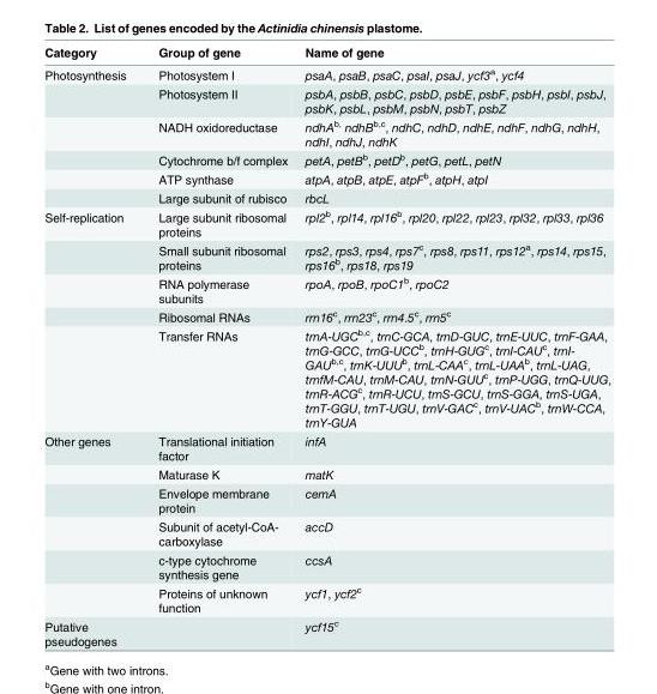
<table><thead><tr><td>Category</td><td>Group of gene</td><td>Name of gene</td></tr></thead><tbody><tr><td rowspan="6">Photosynthesis</td><td>Photosystem I</td><td>psaA, psaB, psaC, psaI, psaJ, ycf3<sup>a</sup>, ycf4</td></tr><tr><td>Photosystem II</td><td>psbA, psbB, psbC, psbD, psbE, psbF, psbH, psbI, psbJ, psbK, psbL, psbM, psbN, psbT, psbZ</td></tr><tr><td>NADH oxidoreductase</td><td>ndhA<sup>b,</sup> ndhB<sup>b,c</sup>, ndhC, ndhD, ndhE, ndhF, ndhG, ndhH, ndhI, ndhJ, ndhK</td></tr><tr><td>Cytochrome b/f complex</td><td>petA, petB<sup>b</sup>, petD<sup>b</sup>, petG, petL, petN</td></tr><tr><td>ATP synthase</td><td>atpA, atpB, atpE, atpF<sup>b</sup>, atpH, atpI</td></tr><tr><td>Large subunit of rubisco</td><td>rbcL</td></tr><tr><td rowspan="5">Self-replication</td><td>Large subunit ribosomal proteins</td><td>rpl2<sup>b</sup>, rpl14, rpl16<sup>b</sup>, rpl20, rpl22, rpl23, rpl32, rpl33, rpl36</td></tr><tr><td>Small subunit ribosomal proteins</td><td>rps2, rps3, rps4, rps7<sup>c</sup>, rps8, rps11, rps12<sup>a</sup>, rps14, rps15, rps16<sup>b</sup>, rps18, rps19</td></tr><tr><td>RNA polymerase subunits</td><td>rpoA, rpoB, rpoC1<sup>b</sup>, rpoC2</td></tr><tr><td>Ribosomal RNAs</td><td>rrn16<sup>c</sup>, rrn23<sup>c</sup>, rrn4.5<sup>c</sup>, rrn5<sup>c</sup></td></tr><tr><td>Transfer RNAs</td><td>trnA-UGCb,c, trnC-GCA, trnD-GUC, trnE-UUC, trnF-GAA, trnG-GCC, trnG-UCCb, trnH-GUGc, trnI-CAUc, trnI- GAUb,c, trnK-UUUb, trnL-CAAc, trnL-UAAb, trnL-UAG, trnfM-CAU, trnM-CAU, trnN-GUUc, trnP-UGG, trnQ-UUG, trnR-ACGc, trnR-UCU, trnS-GCU, trnS-GGA, trnS-UGA, trnT-GGU, trnT-UGU, trnV-GACc, trnV-UACb, trnW-CCA, trnY-GUA</td></tr><tr><td rowspan="6">Other genes</td><td>Translational initiation factor</td><td>infA</td></tr><tr><td>Maturase K</td><td>matK</td></tr><tr><td>Envelope membrane protein</td><td>cemA</td></tr><tr><td>Subunit of acetyl-CoA- carboxylase</td><td>accD</td></tr><tr><td>c-type cytochrome synthesis gene</td><td>ccsA</td></tr><tr><td>Proteins of unknown function</td><td>ycf1, ycf2<sup>c</sup></td></tr><tr><td>Putative pseudogenes</td><td></td><td>ycf15<sup>c</sup></td></tr></tbody></table>